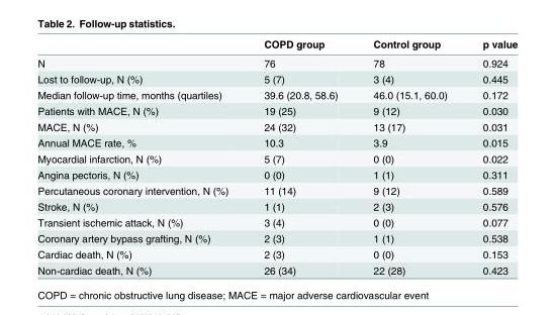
<table><thead><tr><td></td><td>COPD group</td><td>Control group</td><td>p value</td></tr></thead><tbody><tr><td>N</td><td>76</td><td>78</td><td>0.924</td></tr><tr><td>Lost to follow-up, N (%)</td><td>5 (7)</td><td>3 (4)</td><td>0.445</td></tr><tr><td>Median follow-up time, months (quartiles)</td><td>39.6 (20.8, 58.6)</td><td>46.0 (15.1, 60.0)</td><td>0.172</td></tr><tr><td>Patients with MACE, N (%)</td><td>19 (25)</td><td>9 (12)</td><td>0.030</td></tr><tr><td>MACE, N (%)</td><td>24 (32)</td><td>13 (17)</td><td>0.031</td></tr><tr><td>Annual MACE rate, %</td><td>10.3</td><td>3.9</td><td>0.015</td></tr><tr><td>Myocardial infarction, N (%)</td><td>5 (7)</td><td>0 (0)</td><td>0.022</td></tr><tr><td>Angina pectoris, N (%)</td><td>0 (0)</td><td>1 (1)</td><td>0.311</td></tr><tr><td>Percutaneous coronary intervention, N (%)</td><td>11 (14)</td><td>9 (12)</td><td>0.589</td></tr><tr><td>Stroke, N (%)</td><td>1 (1)</td><td>2 (3)</td><td>0.576</td></tr><tr><td>Transient ischemic attack, N (%)</td><td>3 (4)</td><td>0 (0)</td><td>0.077</td></tr><tr><td>Coronary artery bypass grafting, N (%)</td><td>2 (3)</td><td>1 (1)</td><td>0.538</td></tr><tr><td>Cardiac death, N (%)</td><td>2 (3)</td><td>0 (0)</td><td>0.153</td></tr><tr><td>Non-cardiac death, N (%)</td><td>26 (34)</td><td>22 (28)</td><td>0.423</td></tr></tbody></table>